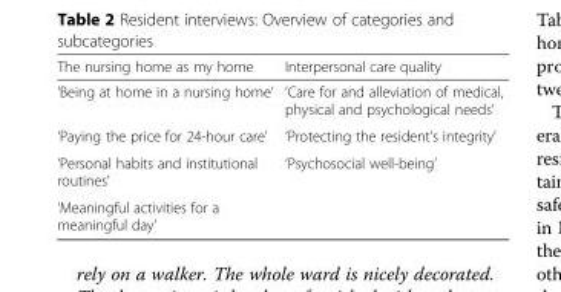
<table><thead><tr><td>The nursing home as my home</td><td>Interpersonal care quality</td></tr></thead><tbody><tr><td>‘Being at home in a nursing home’</td><td>‘Care for and alleviation of medical, physical and psychological needs’</td></tr><tr><td>‘Paying the price for 24-hour care’</td><td>‘Protecting the resident’s integrity’</td></tr><tr><td>‘Personal habits and institutional routines’</td><td>‘Psychosocial well-being’</td></tr><tr><td>‘Meaningful activities for a meaningful day’</td><td></td></tr></tbody></table>